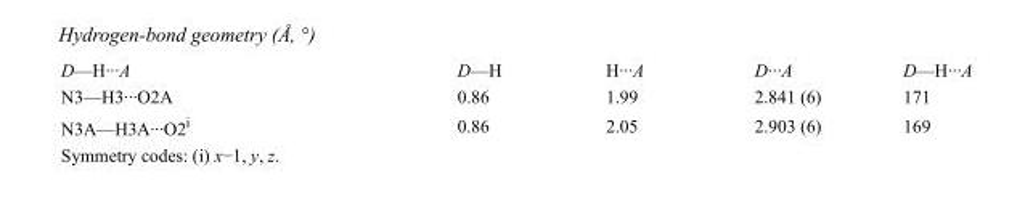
<table><tbody><tr><td>D—H···A</td><td>D—H</td><td>H···A</td><td>D···A</td><td>D—H···A</td></tr><tr><td>N3—H3···O2A</td><td>0.86</td><td>1.99</td><td>2.841 (6)</td><td>171</td></tr><tr><td>N3A—H3A···O2<sup>i</sup></td><td>0.86</td><td>2.05</td><td>2.903 (6)</td><td>169</td></tr></tbody></table>